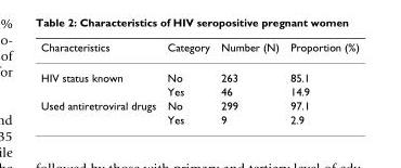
<table><thead><tr><td>Characteristics</td><td>Category</td><td>Number (N)</td><td>Proportion (%)</td></tr></thead><tbody><tr><td rowspan="2">HIV status known</td><td>No</td><td>263</td><td>85.1</td></tr><tr><td>Yes</td><td>46</td><td>14.9</td></tr><tr><td rowspan="2">Used antiretroviral drugs</td><td>No</td><td>299</td><td>97.1</td></tr><tr><td>Yes</td><td>9</td><td>2.9</td></tr></tbody></table>